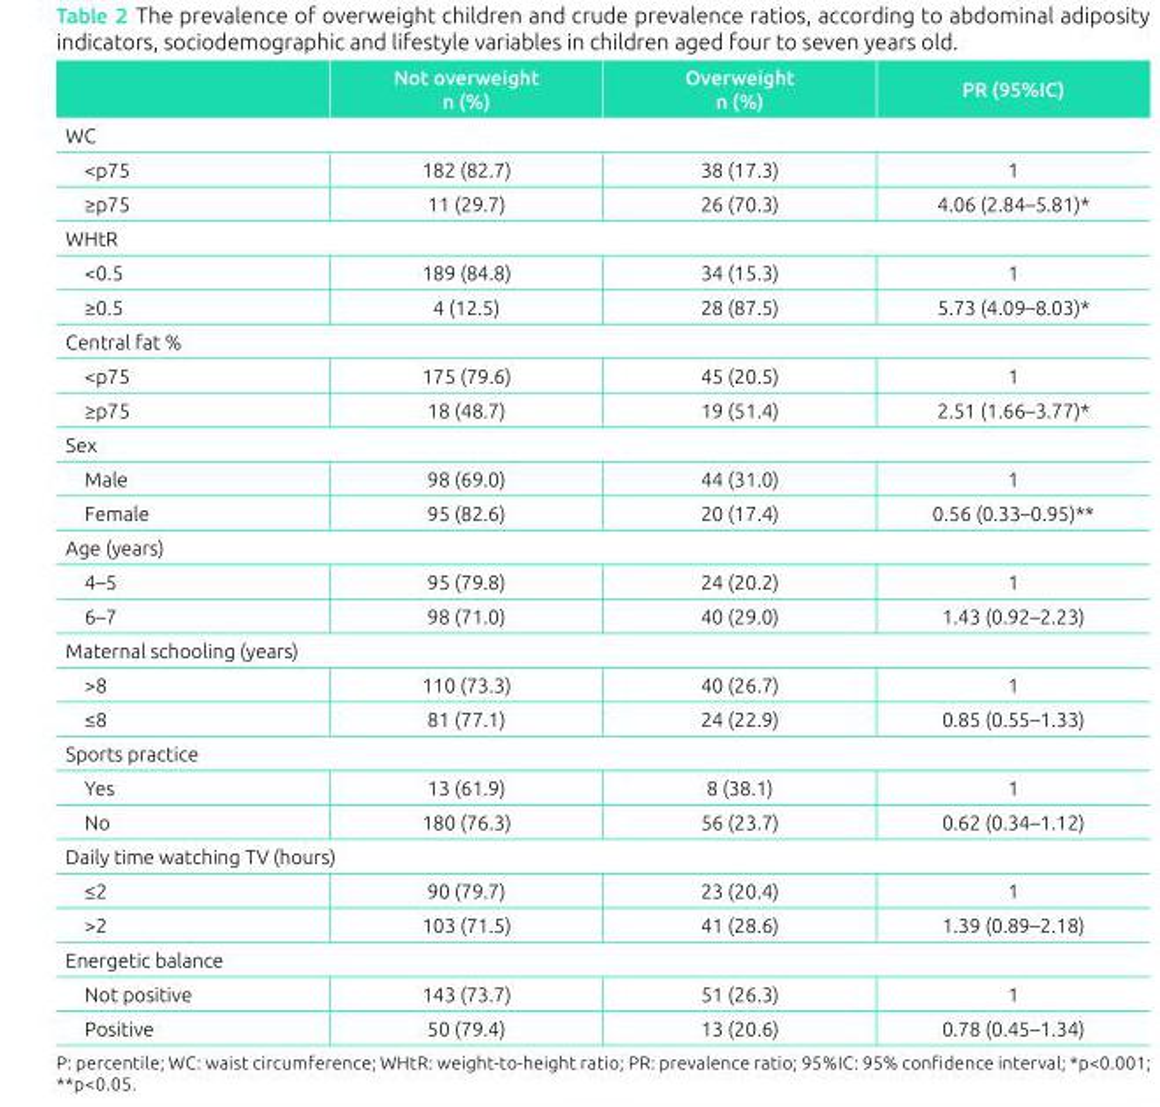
<table><thead><tr><td></td><td>Not overweight n (%)</td><td>Overweight n (%)</td><td>PR (95%IC)</td></tr></thead><tbody><tr><td colspan="4">WC</td></tr><tr><td>&lt;p75</td><td>182 (82.7)</td><td>38 (17.3)</td><td>1</td></tr><tr><td>≥p75</td><td>11 (29.7)</td><td>26 (70.3)</td><td>4.06 (2.84–5.81)*</td></tr><tr><td colspan="4">WHtR</td></tr><tr><td>&lt;0.5</td><td>189 (84.8)</td><td>34 (15.3)</td><td>1</td></tr><tr><td>≥0.5</td><td>4 (12.5)</td><td>28 (87.5)</td><td>5.73 (4.09–8.03)*</td></tr><tr><td colspan="4">Central fat %</td></tr><tr><td>&lt;p75</td><td>175 (79.6)</td><td>45 (20.5)</td><td>1</td></tr><tr><td>≥p75</td><td>18 (48.7)</td><td>19 (51.4)</td><td>2.51 (1.66–3.77)*</td></tr><tr><td colspan="4">Sex</td></tr><tr><td>Male</td><td>98 (69.0)</td><td>44 (31.0)</td><td>1</td></tr><tr><td>Female</td><td>95 (82.6)</td><td>20 (17.4)</td><td>0.56 (0.33–0.95)**</td></tr><tr><td colspan="4">Age (years)</td></tr><tr><td>4–5</td><td>95 (79.8)</td><td>24 (20.2)</td><td>1</td></tr><tr><td>6–7</td><td>98 (71.0)</td><td>40 (29.0)</td><td>1.43 (0.92–2.23)</td></tr><tr><td colspan="4">Maternal schooling (years)</td></tr><tr><td>&gt;8</td><td>110 (73.3)</td><td>40 (26.7)</td><td>1</td></tr><tr><td>≤8</td><td>81 (77.1)</td><td>24 (22.9)</td><td>0.85 (0.55–1.33)</td></tr><tr><td colspan="4">Sports practice</td></tr><tr><td>Yes</td><td>13 (61.9)</td><td>8 (38.1)</td><td>1</td></tr><tr><td>No</td><td>180 (76.3)</td><td>56 (23.7)</td><td>0.62 (0.34–1.12)</td></tr><tr><td colspan="4">Daily time watching TV (hours)</td></tr><tr><td>≤2</td><td>90 (79.7)</td><td>23 (20.4)</td><td>1</td></tr><tr><td>&gt;2</td><td>103 (71.5)</td><td>41 (28.6)</td><td>1.39 (0.89–2.18)</td></tr><tr><td colspan="4">Energetic balance</td></tr><tr><td>Not positive</td><td>143 (73.7)</td><td>51 (26.3)</td><td>1</td></tr><tr><td>Positive</td><td>50 (79.4)</td><td>13 (20.6)</td><td>0.78 (0.45–1.34)</td></tr></tbody></table>